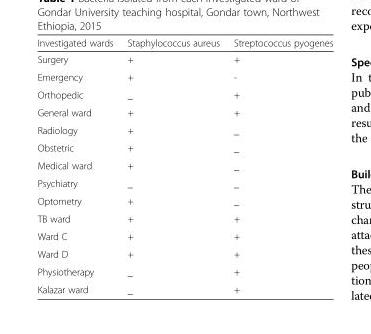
<table><thead><tr><td>Investigated wards</td><td>Staphylococcus aureus</td><td>Streptococcus pyogenes</td></tr></thead><tbody><tr><td>Surgery</td><td>+</td><td>+</td></tr><tr><td>Emergency</td><td>+</td><td>-</td></tr><tr><td>Orthopedic</td><td>_</td><td>+</td></tr><tr><td>General ward</td><td>+</td><td>+</td></tr><tr><td>Radiology</td><td>+</td><td>_</td></tr><tr><td>Obstetric</td><td>+</td><td>_</td></tr><tr><td>Medical ward</td><td>+</td><td>_</td></tr><tr><td>Psychiatry</td><td>_</td><td>_</td></tr><tr><td>Optometry</td><td>+</td><td>_</td></tr><tr><td>TB ward</td><td>+</td><td>+</td></tr><tr><td>Ward C</td><td>+</td><td>+</td></tr><tr><td>Ward D</td><td>+</td><td>+</td></tr><tr><td>Physiotherapy</td><td>_</td><td>+</td></tr><tr><td>Kalazar ward</td><td>_</td><td>+</td></tr></tbody></table>